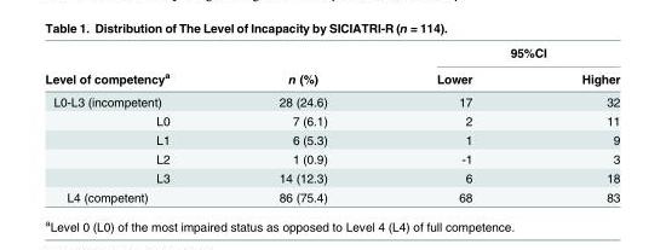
<table><thead><tr><td rowspan="2">Level of competency<sup>a</sup></td><td rowspan="2">n (%)</td><td colspan="2">95%CI</td></tr><tr><td>Lower</td><td>Higher</td></tr></thead><tbody><tr><td>L0-L3 (incompetent)</td><td>28 (24.6)</td><td>17</td><td>32</td></tr><tr><td>L0</td><td>7 (6.1)</td><td>2</td><td>11</td></tr><tr><td>L1</td><td>6 (5.3)</td><td>1</td><td>9</td></tr><tr><td>L2</td><td>1 (0.9)</td><td>-1</td><td>3</td></tr><tr><td>L3</td><td>14 (12.3)</td><td>6</td><td>18</td></tr><tr><td>L4 (competent)</td><td>86 (75.4)</td><td>68</td><td>83</td></tr></tbody></table>